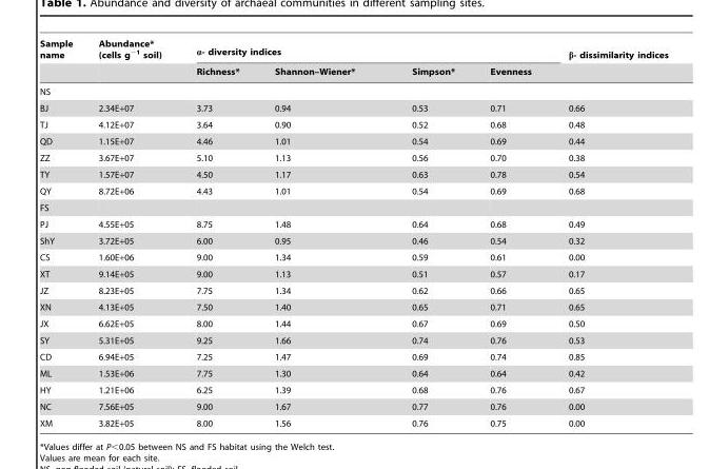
<table><thead><tr><td rowspan="2">Sample name</td><td rowspan="2">Abundance* (cells g<sup>−1</sup> soil)</td><td colspan="4">α- diversity indices</td><td rowspan="2">β- dissimilarity indices</td></tr><tr><td>Richness*</td><td>Shannon–Wiener*</td><td>Simpson*</td><td>Evenness</td></tr></thead><tbody><tr><td colspan="7">NS</td></tr><tr><td>BJ</td><td>2.34E+07</td><td>3.73</td><td>0.94</td><td>0.53</td><td>0.71</td><td>0.66</td></tr><tr><td>TJ</td><td>4.12E+07</td><td>3.64</td><td>0.90</td><td>0.52</td><td>0.68</td><td>0.48</td></tr><tr><td>QD</td><td>1.15E+07</td><td>4.46</td><td>1.01</td><td>0.54</td><td>0.69</td><td>0.44</td></tr><tr><td>ZZ</td><td>3.67E+07</td><td>5.10</td><td>1.13</td><td>0.56</td><td>0.70</td><td>0.38</td></tr><tr><td>TY</td><td>1.57E+07</td><td>4.50</td><td>1.17</td><td>0.63</td><td>0.78</td><td>0.54</td></tr><tr><td>QY</td><td>8.72E+06</td><td>4.43</td><td>1.01</td><td>0.54</td><td>0.69</td><td>0.68</td></tr><tr><td colspan="7">FS</td></tr><tr><td>PJ</td><td>4.55E+05</td><td>8.75</td><td>1.48</td><td>0.64</td><td>0.68</td><td>0.49</td></tr><tr><td>ShY</td><td>3.72E+05</td><td>6.00</td><td>0.95</td><td>0.46</td><td>0.54</td><td>0.32</td></tr><tr><td>CS</td><td>1.60E+06</td><td>9.00</td><td>1.34</td><td>0.59</td><td>0.61</td><td>0.00</td></tr><tr><td>XT</td><td>9.14E+05</td><td>9.00</td><td>1.13</td><td>0.51</td><td>0.57</td><td>0.17</td></tr><tr><td>JZ</td><td>8.23E+05</td><td>7.75</td><td>1.34</td><td>0.62</td><td>0.66</td><td>0.65</td></tr><tr><td>XN</td><td>4.13E+05</td><td>7.50</td><td>1.40</td><td>0.65</td><td>0.71</td><td>0.65</td></tr><tr><td>JX</td><td>6.62E+05</td><td>8.00</td><td>1.44</td><td>0.67</td><td>0.69</td><td>0.50</td></tr><tr><td>SY</td><td>5.31E+05</td><td>9.25</td><td>1.66</td><td>0.74</td><td>0.76</td><td>0.53</td></tr><tr><td>CD</td><td>6.94E+05</td><td>7.25</td><td>1.47</td><td>0.69</td><td>0.74</td><td>0.85</td></tr><tr><td>ML</td><td>1.53E+06</td><td>7.75</td><td>1.30</td><td>0.64</td><td>0.64</td><td>0.42</td></tr><tr><td>HY</td><td>1.21E+06</td><td>6.25</td><td>1.39</td><td>0.68</td><td>0.76</td><td>0.67</td></tr><tr><td>NC</td><td>7.56E+05</td><td>9.00</td><td>1.67</td><td>0.77</td><td>0.76</td><td>0.00</td></tr><tr><td>XM</td><td>3.82E+05</td><td>8.00</td><td>1.56</td><td>0.76</td><td>0.75</td><td>0.00</td></tr></tbody></table>